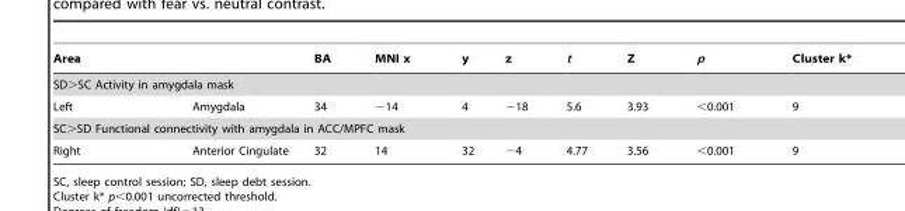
<table><thead><tr><td>Area</td><td></td><td>BA</td><td>MNI x</td><td>y</td><td>z</td><td>t</td><td>Z</td><td>p</td><td>Cluster k*</td></tr></thead><tbody><tr><td colspan="10">SD&gt;SC Activity in amygdala mask</td></tr><tr><td>Left</td><td>Amygdala</td><td>34</td><td>−14</td><td>4</td><td>−18</td><td>5.6</td><td>3.93</td><td>&lt;0.001</td><td>9</td></tr><tr><td colspan="10">SC&gt;SD Functional connectivity with amygdala in ACC/MPFC mask</td></tr><tr><td>Right</td><td>Anterior Cingulate</td><td>32</td><td>14</td><td>32</td><td>−4</td><td>4.77</td><td>3.56</td><td>&lt;0.001</td><td>9</td></tr></tbody></table>